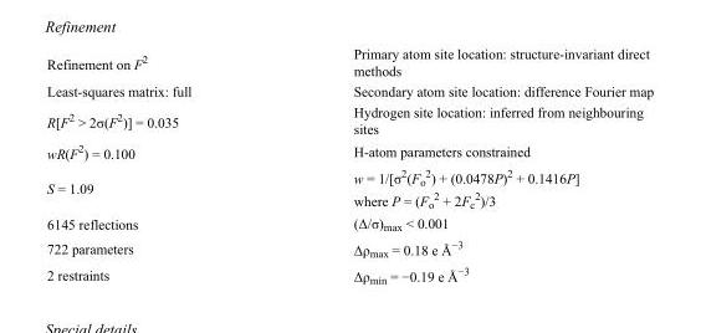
<table><tbody><tr><td>Refinement on F<sup>2</sup></td><td>Primary atom site location: structure-invariant direct methods</td></tr><tr><td>Least-squares matrix: full</td><td>Secondary atom site location: difference Fourier map</td></tr><tr><td>R[F<sup>2</sup> &gt; 2σ(F<sup>2</sup>)] = 0.035</td><td>Hydrogen site location: inferred from neighbouring sites</td></tr><tr><td>wR(F<sup>2</sup>) = 0.100</td><td>H-atom parameters constrained</td></tr><tr><td>S = 1.09</td><td>w = 1/[σ<sup>2</sup>(F<sub>o</sub> <sup>2</sup>) + (0.0478P)<sup>2</sup> + 0.1416P] where P = (F<sub>o</sub> <sup>2</sup> + 2F<sub>c</sub> <sup>2</sup>)/3</td></tr><tr><td>6145 reflections</td><td>(Δ/σ)<sub>max</sub> &lt; 0.001</td></tr><tr><td>722 parameters</td><td>Δρ<sub>max</sub> = 0.18 e Å<sup>−3</sup></td></tr><tr><td>2 restraints</td><td>Δρ<sub>min</sub> = −0.19 e Å<sup>−3</sup></td></tr></tbody></table>